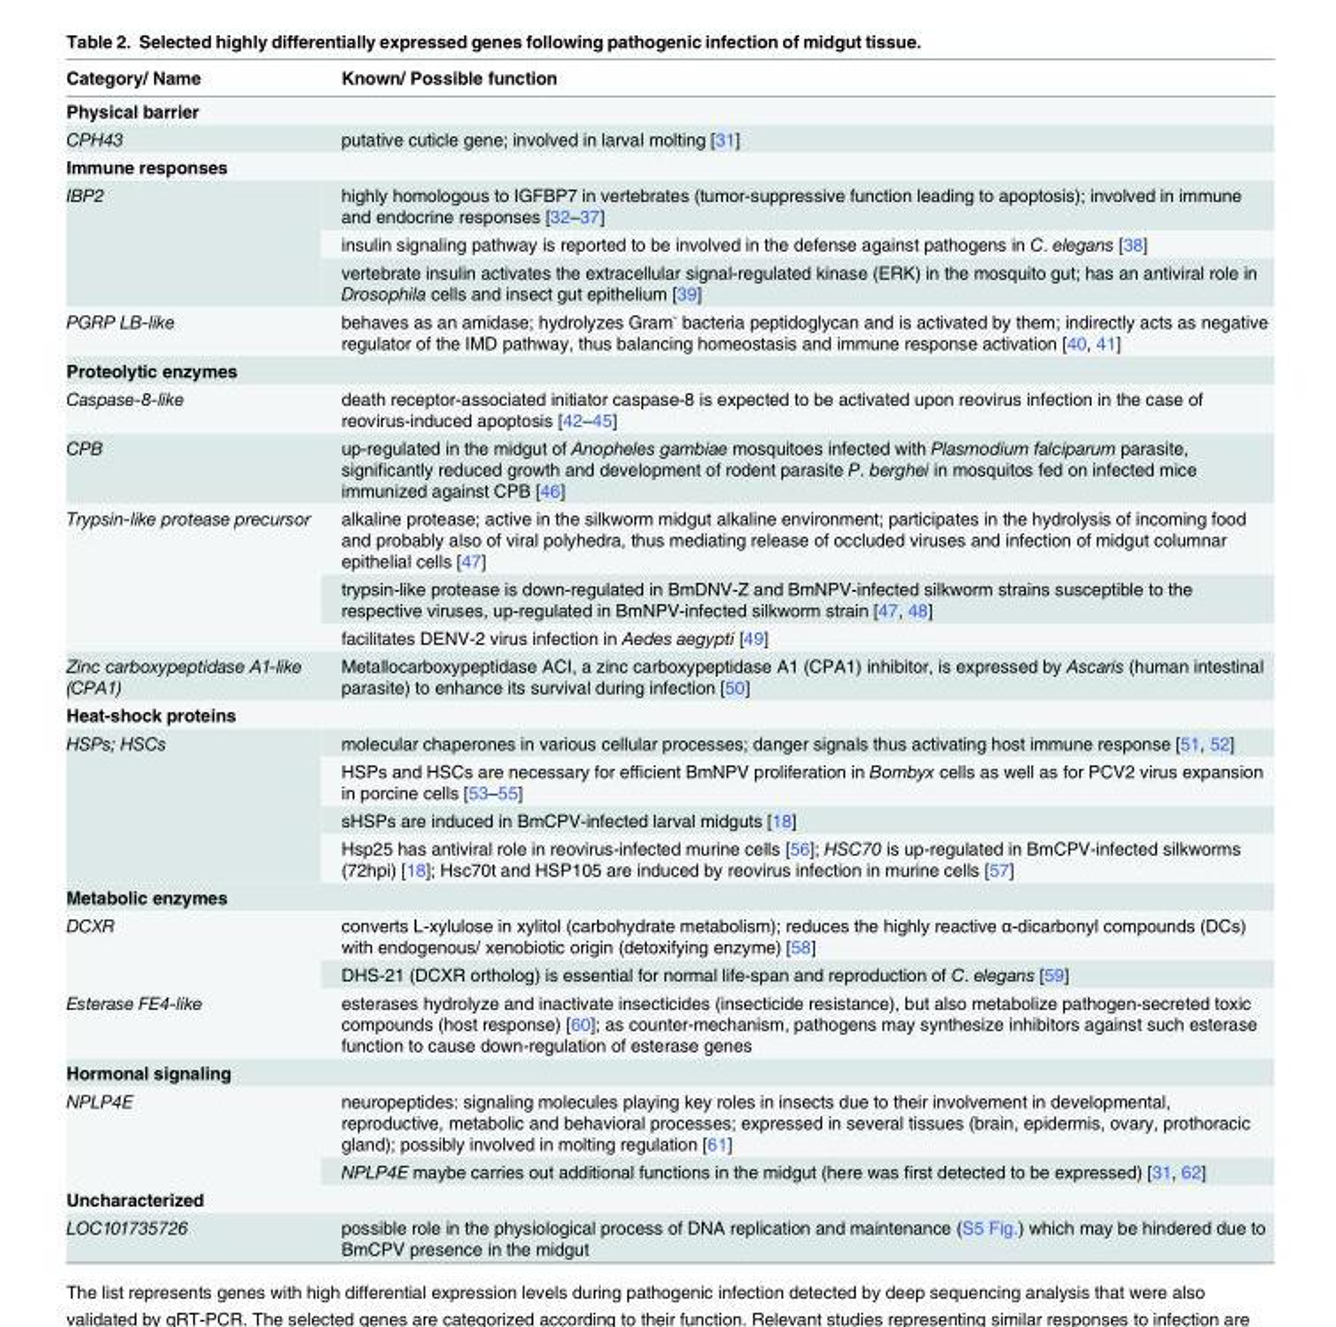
<table><thead><tr><td>Category/ Name</td><td>Known/ Possible function</td></tr></thead><tbody><tr><td colspan="2">Physical barrier</td></tr><tr><td>CPH43</td><td>putative cuticle gene; involved in larval molting [31]</td></tr><tr><td colspan="2">Immune responses</td></tr><tr><td rowspan="3">IBP2</td><td>highly homologous to IGFBP7 in vertebrates (tumor-suppressive function leading to apoptosis); involved in immune and endocrine responses [32–37]</td></tr><tr><td>insulin signaling pathway is reported to be involved in the defense against pathogens in C. elegans [38]</td></tr><tr><td>vertebrate insulin activates the extracellular signal-regulated kinase (ERK) in the mosquito gut; has an antiviral role in Drosophila cells and insect gut epithelium [39]</td></tr><tr><td>PGRP LB-like</td><td>behaves as an amidase; hydrolyzes Gram<sup>-</sup> bacteria peptidoglycan and is activated by them; indirectly acts as negative regulator of the IMD pathway, thus balancing homeostasis and immune response activation [40, 41]</td></tr><tr><td colspan="2">Proteolytic enzymes</td></tr><tr><td>Caspase-8-like</td><td>death receptor-associated initiator caspase-8 is expected to be activated upon reovirus infection in the case of reovirus-induced apoptosis [42–45]</td></tr><tr><td>CPB</td><td>up-regulated in the midgut of Anopheles gambiae mosquitoes infected with Plasmodium falciparum parasite, significantly reduced growth and development of rodent parasite P. berghei in mosquitos fed on infected mice immunized against CPB [46]</td></tr><tr><td rowspan="3">Trypsin-like protease precursor</td><td>alkaline protease; active in the silkworm midgut alkaline environment; participates in the hydrolysis of incoming food and probably also of viral polyhedra, thus mediating release of occluded viruses and infection of midgut columnar epithelial cells [47]</td></tr><tr><td>trypsin-like protease is down-regulated in BmDNV-Z and BmNPV-infected silkworm strains susceptible to the respective viruses, up-regulated in BmNPV-infected silkworm strain [47, 48]</td></tr><tr><td>facilitates DENV-2 virus infection in Aedes aegypti [49]</td></tr><tr><td>Zinc carboxypeptidase A1-like (CPA1)</td><td>Metallocarboxypeptidase ACI, a zinc carboxypeptidase A1 (CPA1) inhibitor, is expressed by Ascaris (human intestinal parasite) to enhance its survival during infection [50]</td></tr><tr><td colspan="2">Heat-shock proteins</td></tr><tr><td rowspan="4">HSPs; HSCs</td><td>molecular chaperones in various cellular processes; danger signals thus activating host immune response [51, 52]</td></tr><tr><td>HSPs and HSCs are necessary for efficient BmNPV proliferation in Bombyx cells as well as for PCV2 virus expansion in porcine cells [53–55]</td></tr><tr><td>sHSPs are induced in BmCPV-infected larval midguts [18]</td></tr><tr><td>Hsp25 has antiviral role in reovirus-infected murine cells [56]; HSC70 is up-regulated in BmCPV-infected silkworms (72hpi) [18]; Hsc70t and HSP105 are induced by reovirus infection in murine cells [57]</td></tr><tr><td colspan="2">Metabolic enzymes</td></tr><tr><td rowspan="2">DCXR</td><td>converts L-xylulose in xylitol (carbohydrate metabolism); reduces the highly reactive α-dicarbonyl compounds (DCs) with endogenous/ xenobiotic origin (detoxifying enzyme) [58]</td></tr><tr><td>DHS-21 (DCXR ortholog) is essential for normal life-span and reproduction of C. elegans [59]</td></tr><tr><td>Esterase FE4-like</td><td>esterases hydrolyze and inactivate insecticides (insecticide resistance), but also metabolize pathogen-secreted toxic compounds (host response) [60]; as counter-mechanism, pathogens may synthesize inhibitors against such esterase function to cause down-regulation of esterase genes</td></tr><tr><td colspan="2">Hormonal signaling</td></tr><tr><td rowspan="2">NPLP4E</td><td>neuropeptides: signaling molecules playing key roles in insects due to their involvement in developmental, reproductive, metabolic and behavioral processes; expressed in several tissues (brain, epidermis, ovary, prothoracic gland); possibly involved in molting regulation [61]</td></tr><tr><td>NPLP4E maybe carries out additional functions in the midgut (here was first detected to be expressed) [31, 62]</td></tr><tr><td colspan="2">Uncharacterized</td></tr><tr><td>LOC101735726</td><td>possible role in the physiological process of DNA replication and maintenance (S5 Fig.) which may be hindered due to BmCPV presence in the midgut</td></tr></tbody></table>